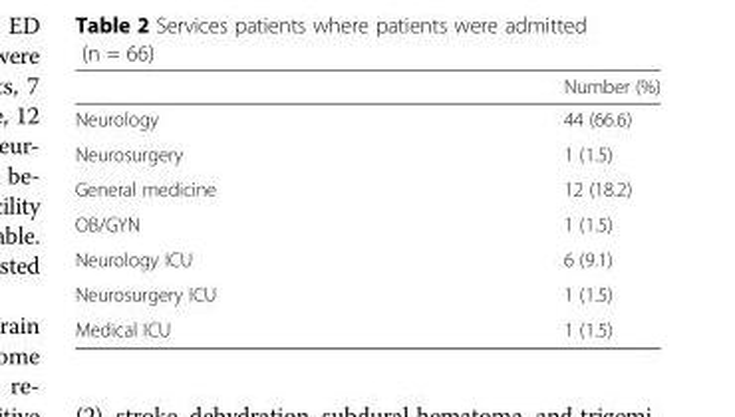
<table><thead><tr><td></td><td>Number (%)</td></tr></thead><tbody><tr><td>Neurology</td><td>44 (66.6)</td></tr><tr><td>Neurosurgery</td><td>1 (1.5)</td></tr><tr><td>General medicine</td><td>12 (18.2)</td></tr><tr><td>OB/GYN</td><td>1 (1.5)</td></tr><tr><td>Neurology ICU</td><td>6 (9.1)</td></tr><tr><td>Neurosurgery ICU</td><td>1 (1.5)</td></tr><tr><td>Medical ICU</td><td>1 (1.5)</td></tr></tbody></table>